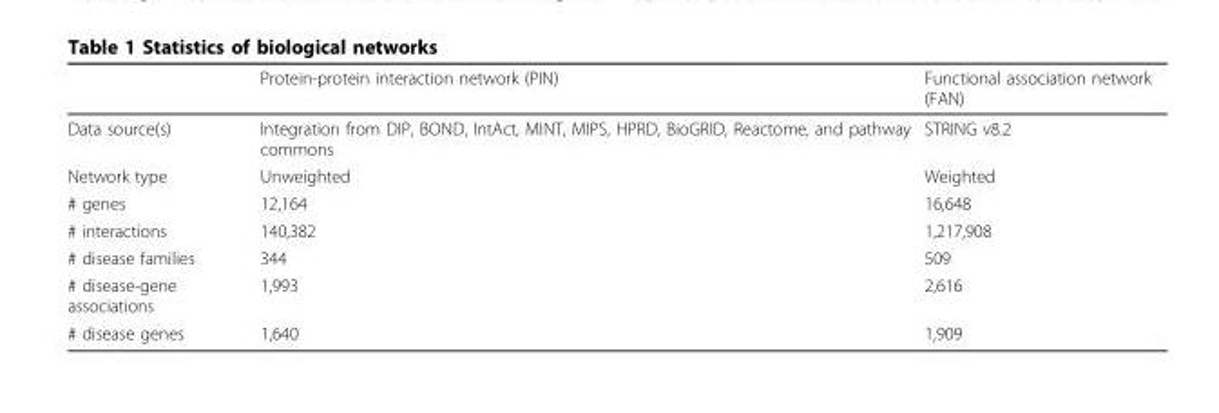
<table><thead><tr><td></td><td>Protein-protein interaction network (PIN)</td><td>Functional association network (FAN)</td></tr></thead><tbody><tr><td>Data source(s)</td><td>Integration from DIP, BOND, IntAct, MINT, MIPS, HPRD, BioGRID, Reactome, and pathway commons</td><td>STRING v8.2</td></tr><tr><td>Network type</td><td>Unweighted</td><td>Weighted</td></tr><tr><td># genes</td><td>12,164</td><td>16,648</td></tr><tr><td># interactions</td><td>140,382</td><td>1,217,908</td></tr><tr><td># disease families</td><td>344</td><td>509</td></tr><tr><td># disease-gene associations</td><td>1,993</td><td>2,616</td></tr><tr><td># disease genes</td><td>1,640</td><td>1,909</td></tr></tbody></table>